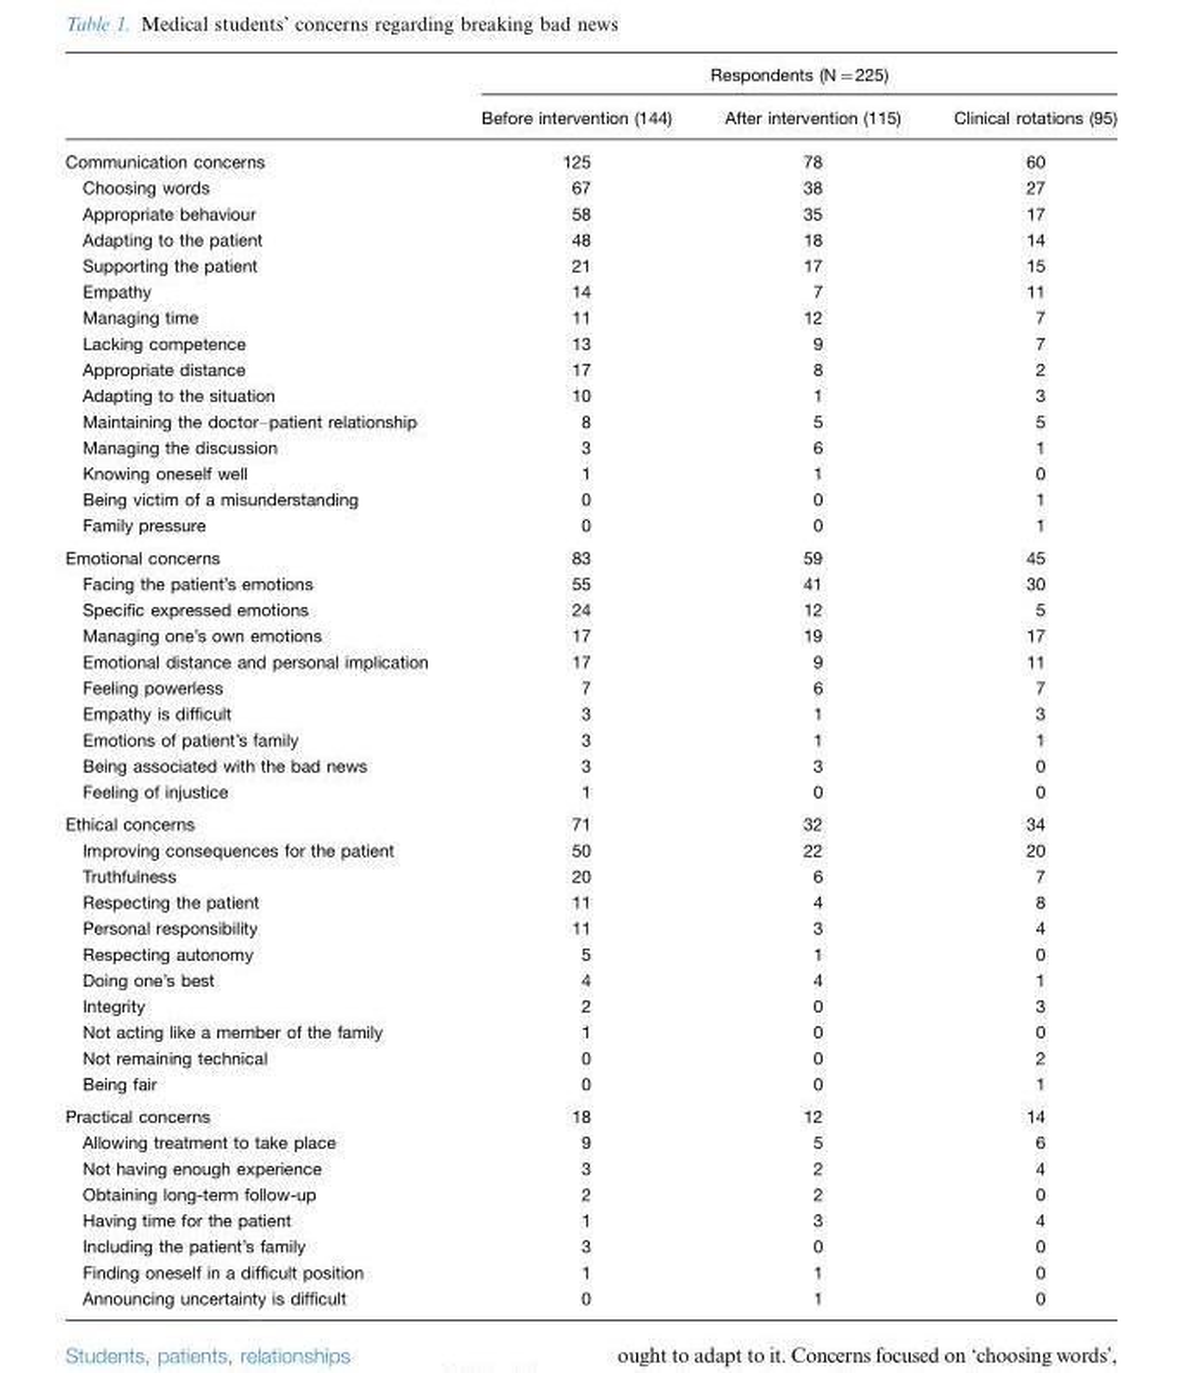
<table><thead><tr><td rowspan="2"></td><td colspan="3">Respondents (N=225)</td></tr><tr><td>Before intervention (144)</td><td>After intervention (115)</td><td>Clinical rotations (95)</td></tr></thead><tbody><tr><td>Communication concerns</td><td>125</td><td>78</td><td>60</td></tr><tr><td>Choosing words</td><td>67</td><td>38</td><td>27</td></tr><tr><td>Appropriate behaviour</td><td>58</td><td>35</td><td>17</td></tr><tr><td>Adapting to the patient</td><td>48</td><td>18</td><td>14</td></tr><tr><td>Supporting the patient</td><td>21</td><td>17</td><td>15</td></tr><tr><td>Empathy</td><td>14</td><td>7</td><td>11</td></tr><tr><td>Managing time</td><td>11</td><td>12</td><td>7</td></tr><tr><td>Lacking competence</td><td>13</td><td>9</td><td>7</td></tr><tr><td>Appropriate distance</td><td>17</td><td>8</td><td>2</td></tr><tr><td>Adapting to the situation</td><td>10</td><td>1</td><td>3</td></tr><tr><td>Maintaining the doctor–patient relationship</td><td>8</td><td>5</td><td>5</td></tr><tr><td>Managing the discussion</td><td>3</td><td>6</td><td>1</td></tr><tr><td>Knowing oneself well</td><td>1</td><td>1</td><td>0</td></tr><tr><td>Being victim of a misunderstanding</td><td>0</td><td>0</td><td>1</td></tr><tr><td>Family pressure</td><td>0</td><td>0</td><td>1</td></tr><tr><td>Emotional concerns</td><td>83</td><td>59</td><td>45</td></tr><tr><td>Facing the patient’s emotions</td><td>55</td><td>41</td><td>30</td></tr><tr><td>Specific expressed emotions</td><td>24</td><td>12</td><td>5</td></tr><tr><td>Managing one’s own emotions</td><td>17</td><td>19</td><td>17</td></tr><tr><td>Emotional distance and personal implication</td><td>17</td><td>9</td><td>11</td></tr><tr><td>Feeling powerless</td><td>7</td><td>6</td><td>7</td></tr><tr><td>Empathy is difficult</td><td>3</td><td>1</td><td>3</td></tr><tr><td>Emotions of patient’s family</td><td>3</td><td>1</td><td>1</td></tr><tr><td>Being associated with the bad news</td><td>3</td><td>3</td><td>0</td></tr><tr><td>Feeling of injustice</td><td>1</td><td>0</td><td>0</td></tr><tr><td>Ethical concerns</td><td>71</td><td>32</td><td>34</td></tr><tr><td>Improving consequences for the patient</td><td>50</td><td>22</td><td>20</td></tr><tr><td>Truthfulness</td><td>20</td><td>6</td><td>7</td></tr><tr><td>Respecting the patient</td><td>11</td><td>4</td><td>8</td></tr><tr><td>Personal responsibility</td><td>11</td><td>3</td><td>4</td></tr><tr><td>Respecting autonomy</td><td>5</td><td>1</td><td>0</td></tr><tr><td>Doing one’s best</td><td>4</td><td>4</td><td>1</td></tr><tr><td>Integrity</td><td>2</td><td>0</td><td>3</td></tr><tr><td>Not acting like a member of the family</td><td>1</td><td>0</td><td>0</td></tr><tr><td>Not remaining technical</td><td>0</td><td>0</td><td>2</td></tr><tr><td>Being fair</td><td>0</td><td>0</td><td>1</td></tr><tr><td>Practical concerns</td><td>18</td><td>12</td><td>14</td></tr><tr><td>Allowing treatment to take place</td><td>9</td><td>5</td><td>6</td></tr><tr><td>Not having enough experience</td><td>3</td><td>2</td><td>4</td></tr><tr><td>Obtaining long-term follow-up</td><td>2</td><td>2</td><td>0</td></tr><tr><td>Having time for the patient</td><td>1</td><td>3</td><td>4</td></tr><tr><td>Including the patient’s family</td><td>3</td><td>0</td><td>0</td></tr><tr><td>Finding oneself in a difficult position</td><td>1</td><td>1</td><td>0</td></tr><tr><td>Announcing uncertainty is difficult</td><td>0</td><td>1</td><td>0</td></tr></tbody></table>